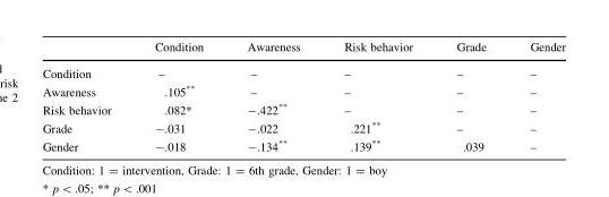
<table><thead><tr><td></td><td>Condition</td><td>Awareness</td><td>Risk behavior</td><td>Grade</td><td>Gender</td></tr></thead><tbody><tr><td>Condition</td><td>–</td><td>–</td><td>–</td><td>–</td><td>–</td></tr><tr><td>Awareness</td><td>.105**</td><td>–</td><td>–</td><td>–</td><td>–</td></tr><tr><td>Risk behavior</td><td>.082*</td><td>-.422**</td><td>–</td><td>–</td><td>–</td></tr><tr><td>Grade</td><td>-.031</td><td>-.022</td><td>.221**</td><td>–</td><td>–</td></tr><tr><td>Gender</td><td>-.018</td><td>-.134**</td><td>.139**</td><td>.039</td><td>–</td></tr></tbody></table>